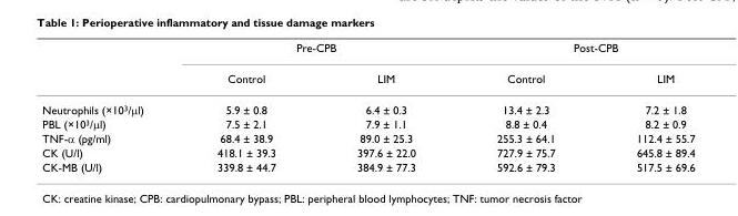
<table><thead><tr><td rowspan="2"></td><td colspan="2">Pre-CPB</td><td colspan="2">Post-CPB</td></tr><tr><td>Control</td><td>LIM</td><td>Control</td><td>LIM</td></tr></thead><tbody><tr><td>Neutrophils (×10<sup>3</sup>/µl)</td><td>5.9 ± 0.8</td><td>6.4 ± 0.3</td><td>13.4 ± 2.3</td><td>7.2 ± 1.8</td></tr><tr><td>PBL (×10<sup>3</sup>/µl)</td><td>7.5 ± 2.1</td><td>7.9 ± 1.1</td><td>8.8 ± 0.4</td><td>8.2 ± 0.9</td></tr><tr><td>TNF-α (pg/ml)</td><td>68.4 ± 38.9</td><td>89.0 ± 25.3</td><td>255.3 ± 64.1</td><td>112.4 ± 55.7</td></tr><tr><td>CK (U/l)</td><td>418.1 ± 39.3</td><td>397.6 ± 22.0</td><td>727.9 ± 75.7</td><td>645.8 ± 89.4</td></tr><tr><td>CK-MB (U/l)</td><td>339.8 ± 44.7</td><td>384.9 ± 77.3</td><td>592.6 ± 79.3</td><td>517.5 ± 69.6</td></tr></tbody></table>